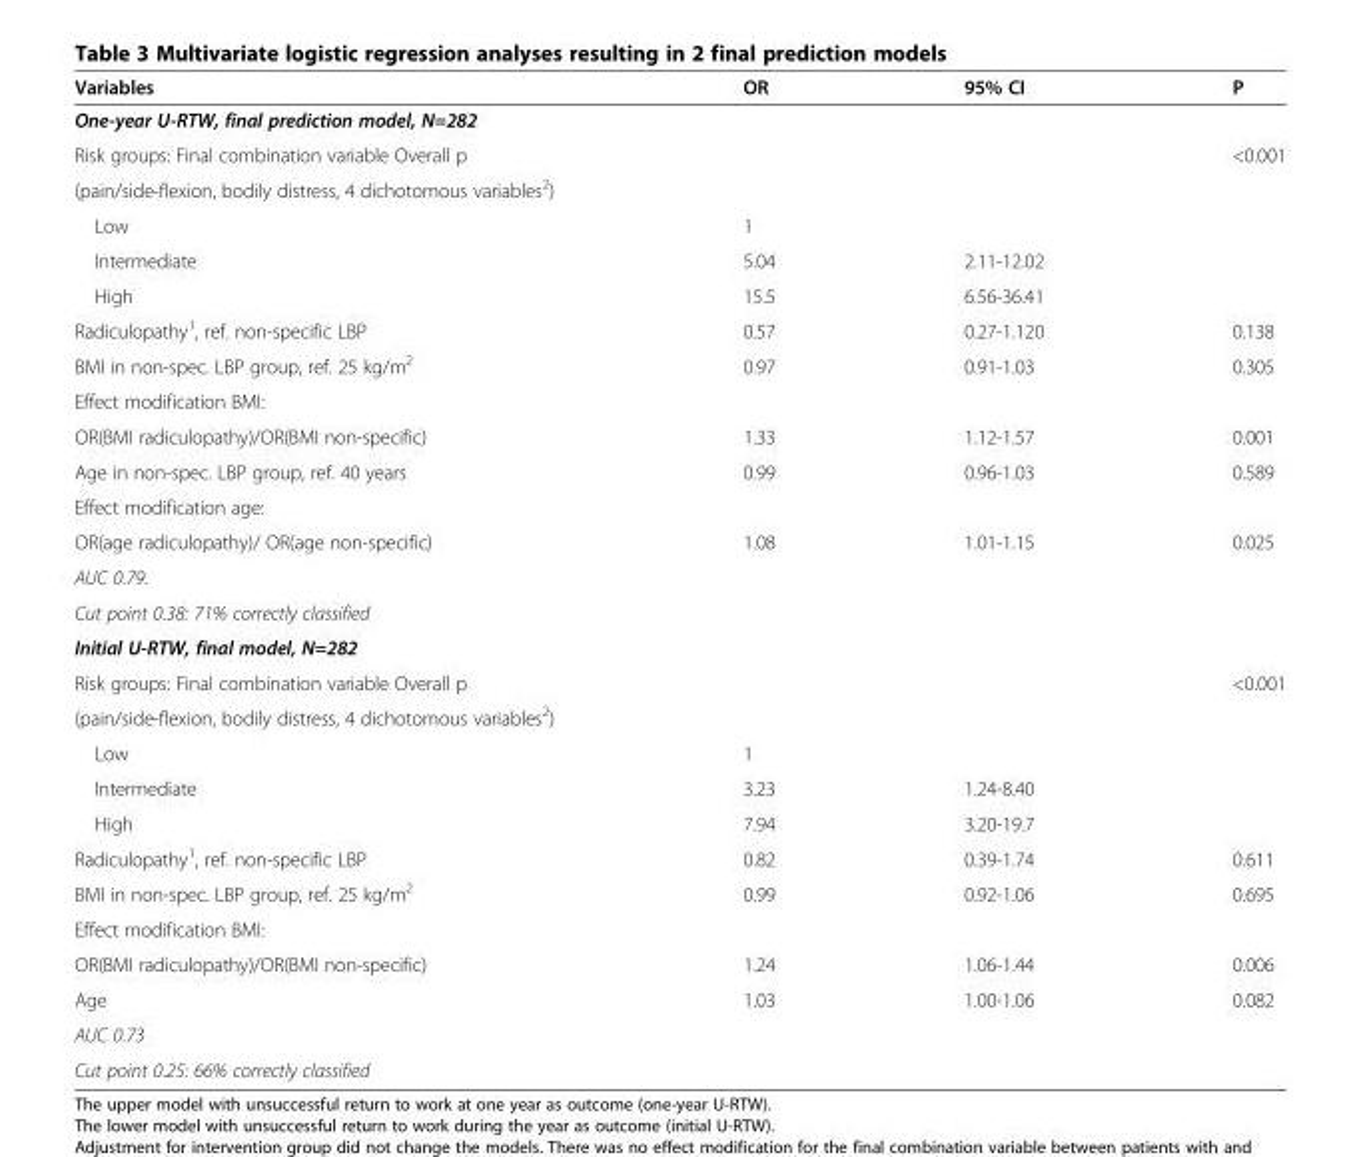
<table><thead><tr><td>Variables</td><td>OR</td><td>95% CI</td><td>P</td></tr></thead><tbody><tr><td colspan="4">One-year U-RTW, final prediction model, N=282</td></tr><tr><td colspan="3">Risk groups: Final combination variable Overall p</td><td rowspan="3">&lt;0.001</td></tr><tr><td colspan="3">(pain/side-flexion, bodily distress, 4 dichotomous variables<sup>2</sup>)</td></tr><tr><td>Low</td><td>1</td><td></td></tr><tr><td>Intermediate</td><td>5.04</td><td>2.11-12.02</td><td></td></tr><tr><td>High</td><td>15.5</td><td>6.56-36.41</td><td></td></tr><tr><td>Radiculopathy<sup>1</sup>, ref. non-specific LBP</td><td>0.57</td><td>0.27-1.120</td><td>0.138</td></tr><tr><td>BMI in non-spec. LBP group, ref. 25 kg/m<sup>2</sup></td><td>0.97</td><td>0.91-1.03</td><td>0.305</td></tr><tr><td colspan="4">Effect modification BMI:</td></tr><tr><td>OR(BMI radiculopathy)/OR(BMI non-specific)</td><td>1.33</td><td>1.12-1.57</td><td>0.001</td></tr><tr><td>Age in non-spec. LBP group, ref. 40 years</td><td>0.99</td><td>0.96-1.03</td><td>0.589</td></tr><tr><td colspan="4">Effect modification age:</td></tr><tr><td>OR(age radiculopathy)/ OR(age non-specific)</td><td>1.08</td><td>1.01-1.15</td><td>0.025</td></tr><tr><td>AUC 0.79.</td><td rowspan="2"></td><td rowspan="2"></td><td rowspan="2"></td></tr><tr><td>Cut point 0.38: 71% correctly classified</td></tr><tr><td colspan="4">Initial U-RTW, final model, N=282</td></tr><tr><td colspan="2">Risk groups: Final combination variable Overall p</td><td rowspan="3"></td><td rowspan="3">&lt;0.001</td></tr><tr><td colspan="2">(pain/side-flexion, bodily distress, 4 dichotomous variables<sup>2</sup>)</td></tr><tr><td>Low</td><td>1</td></tr><tr><td>Intermediate</td><td>3.23</td><td>1.24-8.40</td><td></td></tr><tr><td>High</td><td>7.94</td><td>3.20-19.7</td><td></td></tr><tr><td>Radiculopathy<sup>1</sup>, ref. non-specific LBP</td><td>0.82</td><td>0.39-1.74</td><td>0.611</td></tr><tr><td>BMI in non-spec. LBP group, ref. 25 kg/m<sup>2</sup></td><td>0.99</td><td>0.92-1.06</td><td>0.695</td></tr><tr><td colspan="4">Effect modification BMI:</td></tr><tr><td>OR(BMI radiculopathy)/OR(BMI non-specific)</td><td>1.24</td><td>1.06-1.44</td><td>0.006</td></tr><tr><td>Age</td><td>1.03</td><td>1.00-1.06</td><td>0.082</td></tr><tr><td colspan="4">AUC 0.73</td></tr><tr><td>Cut point 0.25: 66% correctly classified</td><td></td><td></td><td></td></tr></tbody></table>